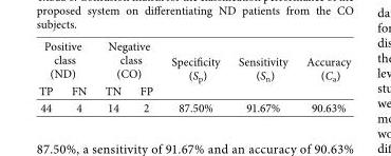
<table><thead><tr><td colspan="2">Positive class (ND)</td><td colspan="2">Negative class (CO)</td><td rowspan="2">Specificity (S<sub>p</sub>)</td><td rowspan="2">Sensitivity (S<sub>n</sub>)</td><td rowspan="2">Accuracy (C<sub>a</sub>)</td></tr><tr><td>TP</td><td>FN</td><td>TN</td><td>FP</td></tr></thead><tbody><tr><td>44</td><td>4</td><td>14</td><td>2</td><td>87.50%</td><td>91.67%</td><td>90.63%</td></tr></tbody></table>